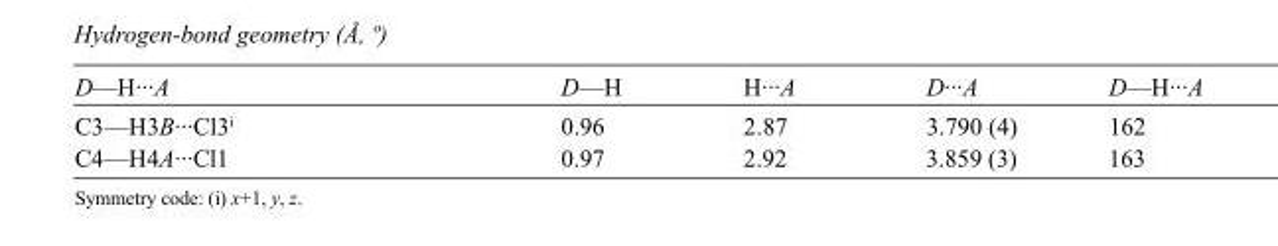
<table><tbody><tr><td>D—H···A</td><td>D—H</td><td>H···A</td><td>D···A</td><td>D—H···A</td></tr><tr><td>C3—H3B···Cl3<sup>i</sup></td><td>0.96</td><td>2.87</td><td>3.790 (4)</td><td>162</td></tr><tr><td>C4—H4A···Cl1</td><td>0.97</td><td>2.92</td><td>3.859 (3)</td><td>163</td></tr></tbody></table>